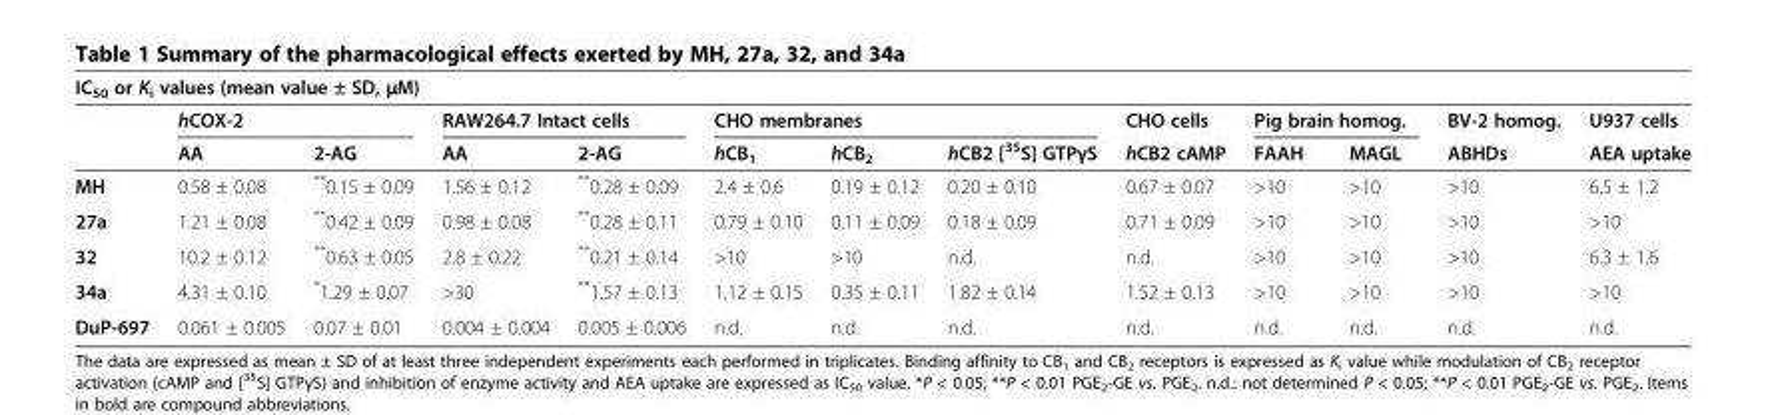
<table><thead><tr><td colspan="13">IC<sub>50</sub> or K<sub>i</sub> values (mean value ± SD, μM)</td></tr><tr><td rowspan="2"></td><td colspan="2">hCOX-2</td><td colspan="2">RAW264.7 Intact cells</td><td colspan="3">CHO membranes</td><td rowspan="2">CHO cells hCB2 cAMP</td><td colspan="2">Pig brain homog.</td><td rowspan="2">BV-2 homog. ABHDs</td><td rowspan="2">U937 cells AEA uptake</td></tr><tr><td>AA</td><td>2-AG</td><td>AA</td><td>2-AG</td><td>hCB<sub>1</sub></td><td>hCB<sub>2</sub></td><td>hCB2 [<sup>35</sup>S] GTPγS</td><td>FAAH</td><td>MAGL</td></tr></thead><tbody><tr><td>MH</td><td>0.58 ± 0.08</td><td>**0.15 ± 0.09</td><td>1.56 ± 0.12</td><td>**0.28 ± 0.09</td><td>2.4 ± 0.6</td><td>0.19 ± 0.12</td><td>0.20 ± 0.10</td><td>0.67 ± 0.07</td><td>&gt;10</td><td>&gt;10</td><td>&gt;10</td><td>6.5 ± 1.2</td></tr><tr><td>27a</td><td>1.21 ± 0.08</td><td>**0.42 ± 0.09</td><td>0.98 ± 0.08</td><td>**0.28 ± 0.11</td><td>0.79 ± 0.10</td><td>0.11 ± 0.09</td><td>0.18 ± 0.09</td><td>0.71 ± 0.09</td><td>&gt;10</td><td>&gt;10</td><td>&gt;10</td><td>&gt;10</td></tr><tr><td>32</td><td>10.2 ± 0.12</td><td>**0.63 ± 0.05</td><td>2.8 ± 0.22</td><td>**0.21 ± 0.14</td><td>&gt;10</td><td>&gt;10</td><td>n.d.</td><td>n.d.</td><td>&gt;10</td><td>&gt;10</td><td>&gt;10</td><td>6.3 ± 1.6</td></tr><tr><td>34a</td><td>4.31 ± 0.10</td><td>*1.29 ± 0.07</td><td>&gt;30</td><td>**1.57 ± 0.13</td><td>1.12 ± 0.15</td><td>0.35 ± 0.11</td><td>1.82 ± 0.14</td><td>1.52 ± 0.13</td><td>&gt;10</td><td>&gt;10</td><td>&gt;10</td><td>&gt;10</td></tr><tr><td>DuP-697</td><td>0.061 ± 0.005</td><td>0.07 ± 0.01</td><td>0.004 ± 0.004</td><td>0.005 ± 0.006</td><td>n.d.</td><td>n.d.</td><td>n.d.</td><td>n.d.</td><td>n.d.</td><td>n.d.</td><td>n.d.</td><td>n.d.</td></tr></tbody></table>